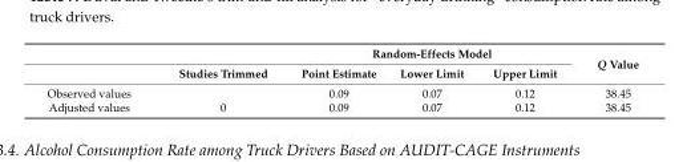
<table><thead><tr><td rowspan="2"></td><td rowspan="2">Studies Trimmed</td><td colspan="3">Random-Effects Model</td><td rowspan="2">Q Value</td></tr><tr><td>Point Estimate</td><td>Lower Limit</td><td>Upper Limit</td></tr></thead><tbody><tr><td>Observed values</td><td></td><td>0.09</td><td>0.07</td><td>0.12</td><td>38.45</td></tr><tr><td>Adjusted values</td><td>0</td><td>0.09</td><td>0.07</td><td>0.12</td><td>38.45</td></tr></tbody></table>